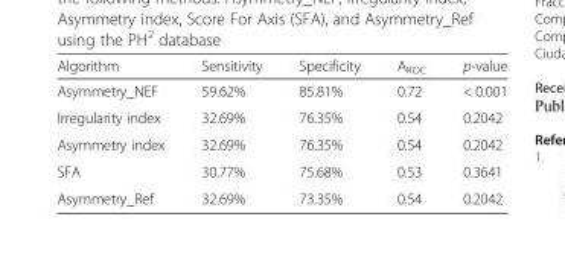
<table><thead><tr><td>Algorithm</td><td>Sensitivity</td><td>Specificity</td><td>A<sub>ROC</sub></td><td>p-value</td></tr></thead><tbody><tr><td>Asymmetry_NEF</td><td>59.62%</td><td>85.81%</td><td>0.72</td><td>&lt; 0.001</td></tr><tr><td>Irregularity index</td><td>32.69%</td><td>76.35%</td><td>0.54</td><td>0.2042</td></tr><tr><td>Asymmetry index</td><td>32.69%</td><td>76.35%</td><td>0.54</td><td>0.2042</td></tr><tr><td>SFA</td><td>30.77%</td><td>75.68%</td><td>0.53</td><td>0.3641</td></tr><tr><td>Asymmetry_Ref</td><td>32.69%</td><td>73.35%</td><td>0.54</td><td>0.2042</td></tr></tbody></table>